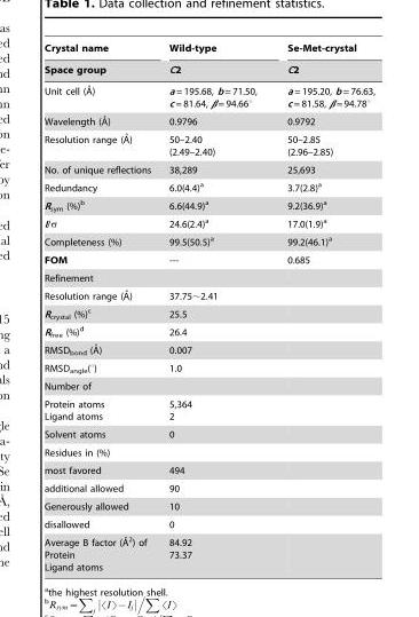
<table><thead><tr><td rowspan="2">Crystal name Space group</td><td rowspan="2">Wild-type C2</td><td rowspan="2">Se-Met-crystal C2</td></tr><tr></tr></thead><tbody><tr><td>Unit cell (A˚)</td><td>a = 195.68, b = 71.50, c = 81.64, β = 94.66°</td><td>a = 195.20, b = 76.63, c = 81.58, β = 94.78°</td></tr><tr><td>Wavelength (A˚)</td><td>0.9796</td><td>0.9792</td></tr><tr><td>Resolution range (A˚)</td><td>50–2.40 (2.49–2.40)</td><td>50–2.85 (2.96–2.85)</td></tr><tr><td>No. of unique reflections</td><td>38,289</td><td>25,693</td></tr><tr><td>Redundancy</td><td>6.0(4.4)<sup>a</sup></td><td>3.7(2.8)<sup>a</sup></td></tr><tr><td>R<sub>sym</sub> (%)<sup>b</sup></td><td>6.6(44.9)<sup>a</sup></td><td>9.2(36.9)<sup>a</sup></td></tr><tr><td>I/σ</td><td>24.6(2.4)<sup>a</sup></td><td>17.0(1.9)<sup>a</sup></td></tr><tr><td>Completeness (%)</td><td>99.5(50.5)<sup>a</sup></td><td>99.2(46.1)<sup>a</sup></td></tr><tr><td>FOM</td><td>---</td><td>0.685</td></tr><tr><td colspan="3">Refinement</td></tr><tr><td>Resolution range (A˚)</td><td>37.75∼2.41</td><td></td></tr><tr><td>R<sub>crystal</sub> (%)<sup>c</sup></td><td>25.5</td><td></td></tr><tr><td>R<sub>free</sub> (%)<sup>d</sup></td><td>26.4</td><td></td></tr><tr><td>RMSDbond (A˚)</td><td>0.007</td><td></td></tr><tr><td>RMSD<sub>angle</sub>(°)</td><td>1.0</td><td></td></tr><tr><td colspan="3">Number of</td></tr><tr><td>Protein atoms Ligand atoms</td><td>5,364 2</td><td></td></tr><tr><td>Solvent atoms</td><td>0</td><td></td></tr><tr><td colspan="3">Residues in (%)</td></tr><tr><td>most favored</td><td>494</td><td></td></tr><tr><td>additional allowed</td><td>90</td><td></td></tr><tr><td>Generously allowed</td><td>10</td><td></td></tr><tr><td>disallowed</td><td>0</td><td></td></tr><tr><td>Average B factor (A˚ 2) of Protein Ligand atoms</td><td>84.92 73.37</td><td></td></tr></tbody></table>